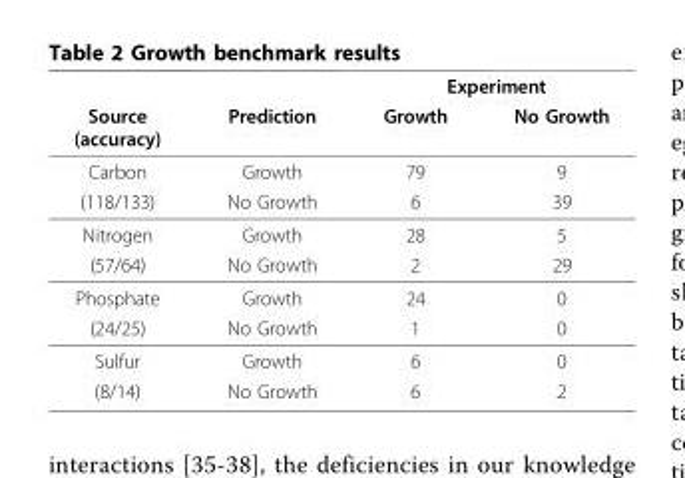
<table><thead><tr><td rowspan="2">Source (accuracy)</td><td rowspan="2">Prediction</td><td colspan="2">Experiment</td></tr><tr><td>Growth</td><td>No Growth</td></tr></thead><tbody><tr><td>Carbon</td><td>Growth</td><td>79</td><td>9</td></tr><tr><td>(118/133)</td><td>No Growth</td><td>6</td><td>39</td></tr><tr><td>Nitrogen</td><td>Growth</td><td>28</td><td>5</td></tr><tr><td>(57/64)</td><td>No Growth</td><td>2</td><td>29</td></tr><tr><td>Phosphate</td><td>Growth</td><td>24</td><td>0</td></tr><tr><td>(24/25)</td><td>No Growth</td><td>1</td><td>0</td></tr><tr><td>Sulfur</td><td>Growth</td><td>6</td><td>0</td></tr><tr><td>(8/14)</td><td>No Growth</td><td>6</td><td>2</td></tr></tbody></table>